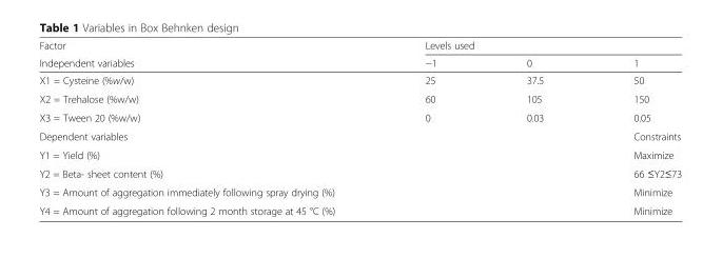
<table><thead><tr><td rowspan="2">Factor Independent variables</td><td colspan="3">Levels used</td></tr><tr><td>−1</td><td>0</td><td>1</td></tr></thead><tbody><tr><td>X1 = Cysteine (%w/w)</td><td>25</td><td>37.5</td><td>50</td></tr><tr><td>X2 = Trehalose (%w/w)</td><td>60</td><td>105</td><td>150</td></tr><tr><td>X3 = Tween 20 (%w/w)</td><td>0</td><td>0.03</td><td>0.05</td></tr><tr><td>Dependent variables</td><td></td><td></td><td>Constraints</td></tr><tr><td>Y1 = Yield (%)</td><td></td><td></td><td>Maximize</td></tr><tr><td>Y2 = Beta- sheet content (%)</td><td></td><td></td><td>66 ≤Y2≤73</td></tr><tr><td>Y3 = Amount of aggregation immediately following spray drying (%)</td><td></td><td></td><td>Minimize</td></tr><tr><td>Y4 = Amount of aggregation following 2 month storage at 45 °C (%)</td><td></td><td></td><td>Minimize</td></tr></tbody></table>